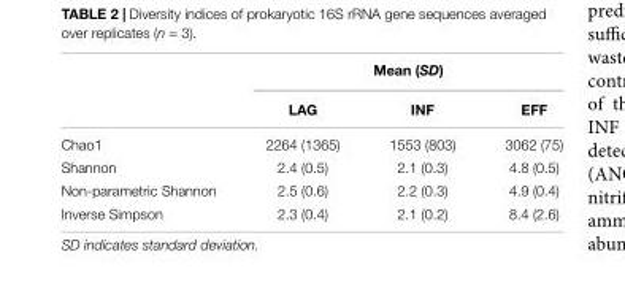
<table><thead><tr><td rowspan="2"></td><td colspan="3">Mean (SD)</td></tr><tr><td>LAG</td><td>INF</td><td>EFF</td></tr></thead><tbody><tr><td>Chao1</td><td>2264 (1365)</td><td>1553 (803)</td><td>3062 (75)</td></tr><tr><td>Shannon</td><td>2.4 (0.5)</td><td>2.1 (0.3)</td><td>4.8 (0.5)</td></tr><tr><td>Non-parametric Shannon</td><td>2.5 (0.6)</td><td>2.2 (0.3)</td><td>4.9 (0.4)</td></tr><tr><td>Inverse Simpson</td><td>2.3 (0.4)</td><td>2.1 (0.2)</td><td>8.4 (2.6)</td></tr></tbody></table>